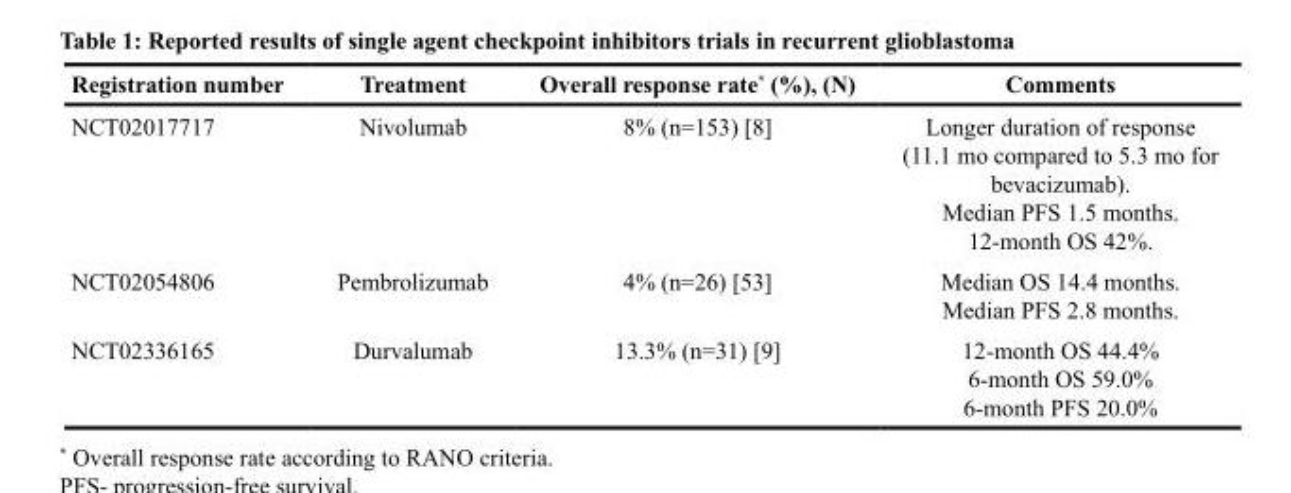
<table><thead><tr><td>Registration number</td><td>Treatment</td><td>Overall response rate* (%), (N)</td><td>Comments</td></tr></thead><tbody><tr><td>NCT02017717</td><td>Nivolumab</td><td>8% (n=153) [8]</td><td>Longer duration of response (11.1 mo compared to 5.3 mo for bevacizumab). Median PFS 1.5 months. 12-month OS 42%.</td></tr><tr><td>NCT02054806</td><td>Pembrolizumab</td><td>4% (n=26) [53]</td><td>Median OS 14.4 months. Median PFS 2.8 months.</td></tr><tr><td>NCT02336165</td><td>Durvalumab</td><td>13.3% (n=31) [9]</td><td>12-month OS 44.4% 6-month OS 59.0% 6-month PFS 20.0%</td></tr></tbody></table>